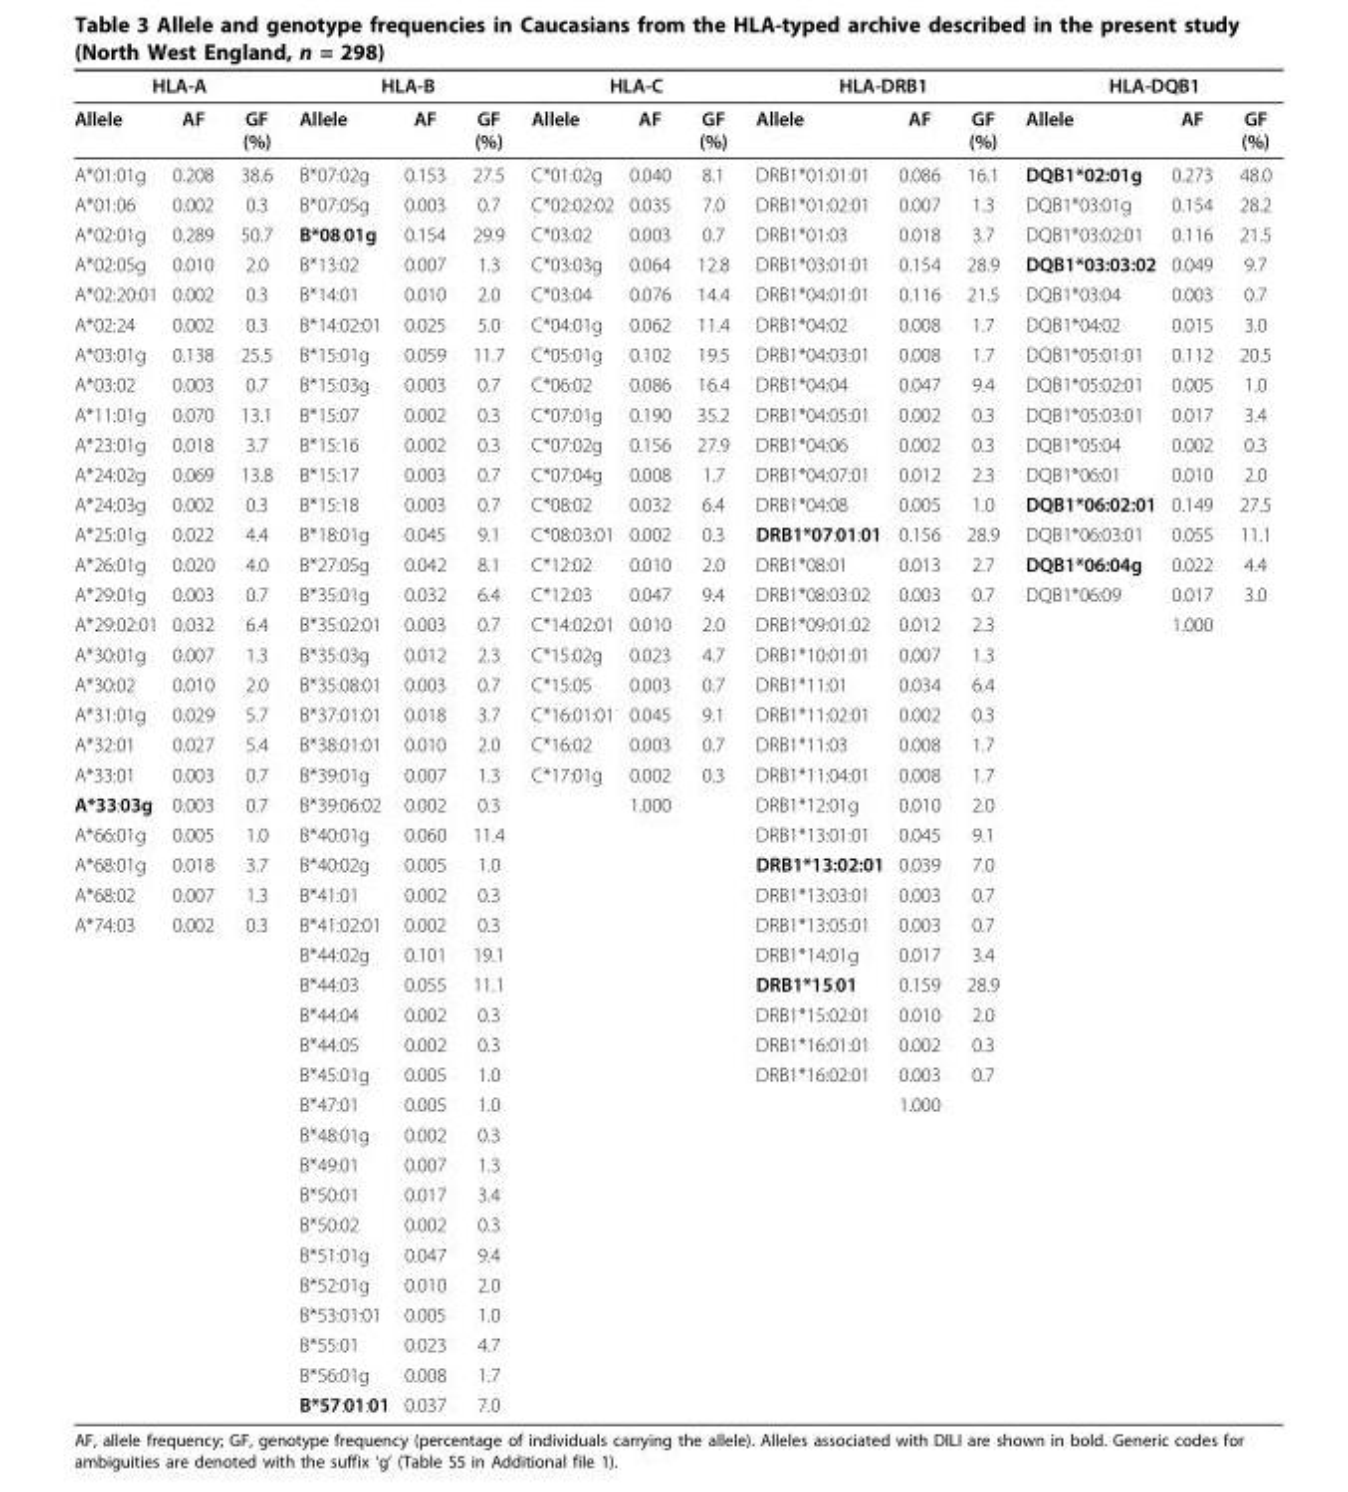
<table><thead><tr><td colspan="3">HLA-A</td><td colspan="3">HLA-B</td><td colspan="3">HLA-C</td><td colspan="3">HLA-DRB1</td><td colspan="3">HLA-DQB1</td></tr><tr><td>Allele</td><td>AF</td><td>GF (%)</td><td>Allele</td><td>AF</td><td>GF (%)</td><td>Allele</td><td>AF</td><td>GF (%)</td><td>Allele</td><td>AF</td><td>GF (%)</td><td>Allele</td><td>AF</td><td>GF (%)</td></tr></thead><tbody><tr><td>A*01:01g</td><td>0.208</td><td>38.6</td><td>B*07:02g</td><td>0.153</td><td>27.5</td><td>C*01:02g</td><td>0.040</td><td>8.1</td><td>DRB1*01:01:01</td><td>0.086</td><td>16.1</td><td>DQB1*02:01g</td><td>0.273</td><td>48.0</td></tr><tr><td>A*01:06</td><td>0.002</td><td>0.3</td><td>B*07:05g</td><td>0.003</td><td>0.7</td><td>C*02:02:02</td><td>0.035</td><td>7.0</td><td>DRB1*01:02:01</td><td>0.007</td><td>1.3</td><td>DQB1*03:01g</td><td>0.154</td><td>28.2</td></tr><tr><td>A*02:01g</td><td>0.289</td><td>50.7</td><td>B*08:01g</td><td>0.154</td><td>29.9</td><td>C*03:02</td><td>0.003</td><td>0.7</td><td>DRB1*01:03</td><td>0.018</td><td>3.7</td><td>DQB1*03:02:01</td><td>0.116</td><td>21.5</td></tr><tr><td>A*02:05g</td><td>0.010</td><td>2.0</td><td>B*13:02</td><td>0.007</td><td>1.3</td><td>C*03:03g</td><td>0.064</td><td>12.8</td><td>DRB1*03:01:01</td><td>0.154</td><td>28.9</td><td>DQB1*03:03:02</td><td>0.049</td><td>9.7</td></tr><tr><td>A*02:20:01</td><td>0.002</td><td>0.3</td><td>B*14:01</td><td>0.010</td><td>2.0</td><td>C*03:04</td><td>0.076</td><td>14.4</td><td>DRB1*04:01:01</td><td>0.116</td><td>21.5</td><td>DQB1*03:04</td><td>0.003</td><td>0.7</td></tr><tr><td>A*02:24</td><td>0.002</td><td>0.3</td><td>B*14:02:01</td><td>0.025</td><td>5.0</td><td>C*04:01g</td><td>0.062</td><td>11.4</td><td>DRB1*04:02</td><td>0.008</td><td>1.7</td><td>DQB1*04:02</td><td>0.015</td><td>3.0</td></tr><tr><td>A*03:01g</td><td>0.138</td><td>25.5</td><td>B*15:01g</td><td>0.059</td><td>11.7</td><td>C*05:01g</td><td>0.102</td><td>19.5</td><td>DRB1*04:03:01</td><td>0.008</td><td>1.7</td><td>DQB1*05:01:01</td><td>0.112</td><td>20.5</td></tr><tr><td>A*03:02</td><td>0.003</td><td>0.7</td><td>B*15:03g</td><td>0.003</td><td>0.7</td><td>C*06:02</td><td>0.086</td><td>16.4</td><td>DRB1*04:04</td><td>0.047</td><td>9.4</td><td>DQB1*05:02:01</td><td>0.005</td><td>1.0</td></tr><tr><td>A*11:01g</td><td>0.070</td><td>13.1</td><td>B*15:07</td><td>0.002</td><td>0.3</td><td>C*07:01g</td><td>0.190</td><td>35.2</td><td>DRB1*04:05:01</td><td>0.002</td><td>0.3</td><td>DQB1*05:03:01</td><td>0.017</td><td>3.4</td></tr><tr><td>A*23:01g</td><td>0.018</td><td>3.7</td><td>B*15:16</td><td>0.002</td><td>0.3</td><td>C*07:02g</td><td>0.156</td><td>27.9</td><td>DRB1*04:06</td><td>0.002</td><td>0.3</td><td>DQB1*05:04</td><td>0.002</td><td>0.3</td></tr><tr><td>A*24:02g</td><td>0.069</td><td>13.8</td><td>B*15:17</td><td>0.003</td><td>0.7</td><td>C*07:04g</td><td>0.008</td><td>1.7</td><td>DRB1*04:07:01</td><td>0.012</td><td>2.3</td><td>DQB1*06:01</td><td>0.010</td><td>2.0</td></tr><tr><td>A*24:03g</td><td>0.002</td><td>0.3</td><td>B*15:18</td><td>0.003</td><td>0.7</td><td>C*08:02</td><td>0.032</td><td>6.4</td><td>DRB1*04:08</td><td>0.005</td><td>1.0</td><td>DQB1*06:02:01</td><td>0.149</td><td>27.5</td></tr><tr><td>A*25:01g</td><td>0.022</td><td>4.4</td><td>B*18:01g</td><td>0.045</td><td>9.1</td><td>C*08:03:01</td><td>0.002</td><td>0.3</td><td>DRB1*07:01:01</td><td>0.156</td><td>28.9</td><td>DQB1*06:03:01</td><td>0.055</td><td>11.1</td></tr><tr><td>A*26:01g</td><td>0.020</td><td>4.0</td><td>B*27:05g</td><td>0.042</td><td>8.1</td><td>C*12:02</td><td>0.010</td><td>2.0</td><td>DRB1*08:01</td><td>0.013</td><td>2.7</td><td>DQB1*06:04g</td><td>0.022</td><td>4.4</td></tr><tr><td>A*29:01g</td><td>0.003</td><td>0.7</td><td>B*35:01g</td><td>0.032</td><td>6.4</td><td>C*12:03</td><td>0.047</td><td>9.4</td><td>DRB1*08:03:02</td><td>0.003</td><td>0.7</td><td>DQB1*06:09</td><td>0.017</td><td>3.0</td></tr><tr><td>A*29:02:01</td><td>0.032</td><td>6.4</td><td>B*35:02:01</td><td>0.003</td><td>0.7</td><td>C*14:02:01</td><td>0.010</td><td>2.0</td><td>DRB1*09:01:02</td><td>0.012</td><td>2.3</td><td></td><td>1.000</td><td></td></tr><tr><td>A*30:01g</td><td>0.007</td><td>1.3</td><td>B*35:03g</td><td>0.012</td><td>2.3</td><td>C*15:02g</td><td>0.023</td><td>4.7</td><td>DRB1*10:01:01</td><td>0.007</td><td>1.3</td><td></td><td></td><td></td></tr><tr><td>A*30:02</td><td>0.010</td><td>2.0</td><td>B*35:08:01</td><td>0.003</td><td>0.7</td><td>C*15:05</td><td>0.003</td><td>0.7</td><td>DRB1*11:01</td><td>0.034</td><td>6.4</td><td></td><td></td><td></td></tr><tr><td>A*31:01g</td><td>0.029</td><td>5.7</td><td>B*37:01:01</td><td>0.018</td><td>3.7</td><td>C*16:01:01</td><td>0.045</td><td>9.1</td><td>DRB1*11:02:01</td><td>0.002</td><td>0.3</td><td></td><td></td><td></td></tr><tr><td>A*32:01</td><td>0.027</td><td>5.4</td><td>B*38:01:01</td><td>0.010</td><td>2.0</td><td>C*16:02</td><td>0.003</td><td>0.7</td><td>DRB1*11:03</td><td>0.008</td><td>1.7</td><td></td><td></td><td></td></tr><tr><td>A*33:01</td><td>0.003</td><td>0.7</td><td>B*39:01g</td><td>0.007</td><td>1.3</td><td>C*17:01g</td><td>0.002</td><td>0.3</td><td>DRB1*11:04:01</td><td>0.008</td><td>1.7</td><td></td><td></td><td></td></tr><tr><td>A*33:03g</td><td>0.003</td><td>0.7</td><td>B*39:06:02</td><td>0.002</td><td>0.3</td><td></td><td>1.000</td><td></td><td>DRB1*12:01g</td><td>0.010</td><td>2.0</td><td></td><td></td><td></td></tr><tr><td>A*66:01g</td><td>0.005</td><td>1.0</td><td>B*40:01g</td><td>0.060</td><td>11.4</td><td></td><td></td><td></td><td>DRB1*13:01:01</td><td>0.045</td><td>9.1</td><td></td><td></td><td></td></tr><tr><td>A*68:01g</td><td>0.018</td><td>3.7</td><td>B*40:02g</td><td>0.005</td><td>1.0</td><td></td><td></td><td></td><td>DRB1*13:02:01</td><td>0.039</td><td>7.0</td><td></td><td></td><td></td></tr><tr><td>A*68:02</td><td>0.007</td><td>1.3</td><td>B*41:01</td><td>0.002</td><td>0.3</td><td></td><td></td><td></td><td>DRB1*13:03:01</td><td>0.003</td><td>0.7</td><td></td><td></td><td></td></tr><tr><td rowspan="17">A*74:03</td><td>0.002</td><td>0.3</td><td>B*41:02:01</td><td>0.002</td><td>0.3</td><td></td><td></td><td></td><td>DRB1*13:05:01</td><td>0.003</td><td>0.7</td><td></td><td></td><td></td></tr><tr><td></td><td></td><td>B*44:02g</td><td>0.101</td><td>19.1</td><td></td><td></td><td></td><td>DRB1*14:01g</td><td>0.017</td><td>3.4</td><td></td><td></td><td></td></tr><tr><td></td><td></td><td>B*44:03</td><td>0.055</td><td>11.1</td><td></td><td></td><td></td><td>DRB1*15:01</td><td>0.159</td><td>28.9</td><td></td><td></td><td></td></tr><tr><td></td><td></td><td>B*44:04</td><td>0.002</td><td>0.3</td><td></td><td></td><td></td><td>DRB1*15:02:01</td><td>0.010</td><td>2.0</td><td></td><td></td><td></td></tr><tr><td></td><td></td><td>B*44:05</td><td>0.002</td><td>0.3</td><td></td><td></td><td></td><td>DRB1*16:01:01</td><td>0.002</td><td>0.3</td><td></td><td></td><td></td></tr><tr><td></td><td></td><td>B*45:01g</td><td>0.005</td><td>1.0</td><td></td><td></td><td></td><td>DRB1*16:02:01</td><td>0.003</td><td>0.7</td><td></td><td></td><td></td></tr><tr><td></td><td></td><td>B*47:01</td><td>0.005</td><td>1.0</td><td></td><td></td><td></td><td></td><td>1.000</td><td></td><td></td><td></td><td></td></tr><tr><td></td><td></td><td>B*48:01g</td><td>0.002</td><td>0.3</td><td></td><td></td><td></td><td></td><td></td><td></td><td></td><td></td><td></td></tr><tr><td></td><td></td><td>B*49:01</td><td>0.007</td><td>1.3</td><td></td><td></td><td></td><td></td><td></td><td></td><td></td><td></td><td></td></tr><tr><td></td><td></td><td>B*50:01</td><td>0.017</td><td>3.4</td><td></td><td></td><td></td><td></td><td></td><td></td><td></td><td></td><td></td></tr><tr><td></td><td></td><td>B*50:02</td><td>0.002</td><td>0.3</td><td></td><td></td><td></td><td></td><td></td><td></td><td></td><td></td><td></td></tr><tr><td></td><td></td><td>B*51:01g</td><td>0.047</td><td>9.4</td><td></td><td></td><td></td><td></td><td></td><td></td><td></td><td></td><td></td></tr><tr><td></td><td></td><td>B*52:01g</td><td>0.010</td><td>2.0</td><td></td><td></td><td></td><td></td><td></td><td></td><td></td><td></td><td></td></tr><tr><td></td><td></td><td>B*53:01:01</td><td>0.005</td><td>1.0</td><td></td><td></td><td></td><td></td><td></td><td></td><td></td><td></td><td></td></tr><tr><td></td><td></td><td>B*55:01</td><td>0.023</td><td>4.7</td><td></td><td></td><td></td><td></td><td></td><td></td><td></td><td></td><td></td></tr><tr><td></td><td></td><td>B*56:01g</td><td>0.008</td><td>1.7</td><td></td><td></td><td></td><td></td><td></td><td></td><td></td><td></td><td></td></tr><tr><td></td><td></td><td>B*57:01:01</td><td>0.037</td><td>7.0</td><td></td><td></td><td></td><td></td><td></td><td></td><td></td><td></td><td></td></tr></tbody></table>